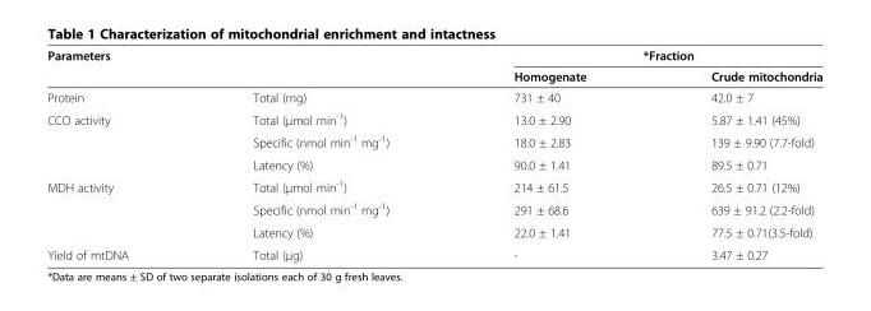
<table><thead><tr><td rowspan="2" colspan="2">Parameters</td><td colspan="2">*Fraction</td></tr><tr><td rowspan="2">Homogenate 731 ± 40</td><td rowspan="2">Crude mitochondria 42.0 ± 7</td></tr><tr><td>Protein</td><td>Total (mg)</td></tr></thead><tbody><tr><td rowspan="3">CCO activity</td><td>Total (μmol min<sup>-1</sup>)</td><td>13.0 ± 2.90</td><td>5.87 ± 1.41 (45%)</td></tr><tr><td>Specific (nmol min<sup>-1</sup> mg<sup>-1</sup>)</td><td>18.0 ± 2.83</td><td>139 ± 9.90 (7.7-fold)</td></tr><tr><td>Latency (%)</td><td>90.0 ± 1.41</td><td>89.5 ± 0.71</td></tr><tr><td rowspan="3">MDH activity</td><td>Total (μmol min<sup>-1</sup>)</td><td>214 ± 61.5</td><td>26.5 ± 0.71 (12%)</td></tr><tr><td>Specific (nmol min<sup>-1</sup> mg<sup>-1</sup>)</td><td>291 ± 68.6</td><td>639 ± 91.2 (2.2-fold)</td></tr><tr><td>Latency (%)</td><td>22.0 ± 1.41</td><td>77.5 ± 0.71(3.5-fold)</td></tr><tr><td>Yield of mtDNA</td><td>Total (μg)</td><td>-</td><td>3.47 ± 0.27</td></tr></tbody></table>